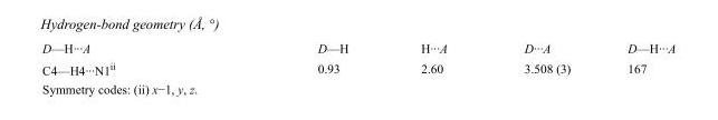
<table><tbody><tr><td>D—H···A</td><td>D—H</td><td>H···A</td><td>D···A</td><td>D—H···A</td></tr><tr><td>C4—H4···N1<sup>ii</sup></td><td>0.93</td><td>2.60</td><td>3.508 (3)</td><td>167</td></tr></tbody></table>